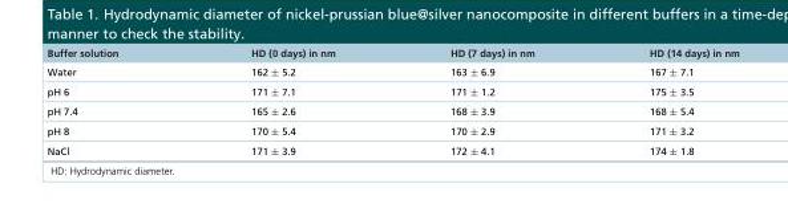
<table><thead><tr><td>Buffer solution</td><td>HD (0 days) in nm</td><td>HD (7 days) in nm</td><td>HD (14 days) in nm</td></tr></thead><tbody><tr><td>Water</td><td>162 ± 5.2</td><td>163 ± 6.9</td><td>167 ± 7.1</td></tr><tr><td>pH 6</td><td>171 ± 7.1</td><td>171 ± 1.2</td><td>175 ± 3.5</td></tr><tr><td>pH 7.4</td><td>165 ± 2.6</td><td>168 ± 3.9</td><td>168 ± 5.4</td></tr><tr><td>pH 8</td><td>170 ± 5.4</td><td>170 ± 2.9</td><td>171 ± 3.2</td></tr><tr><td>NaCl</td><td>171 ± 3.9</td><td>172 ± 4.1</td><td>174 ± 1.8</td></tr></tbody></table>